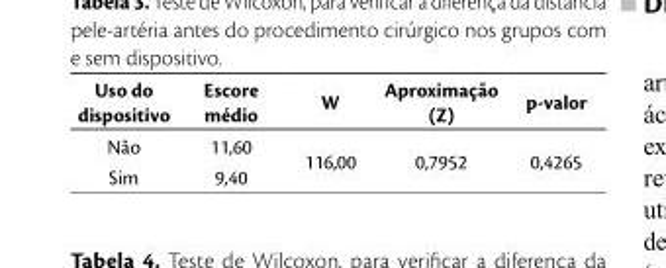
<table><thead><tr><td>Uso do dispositivo</td><td>Escore médio</td><td>W</td><td>Aproximação (Z)</td><td>p-valor</td></tr></thead><tbody><tr><td>Não</td><td>11,60</td><td rowspan="2">116,00</td><td rowspan="2">0,7952</td><td rowspan="2">0,4265</td></tr><tr><td>Sim</td><td>9,40</td></tr></tbody></table>